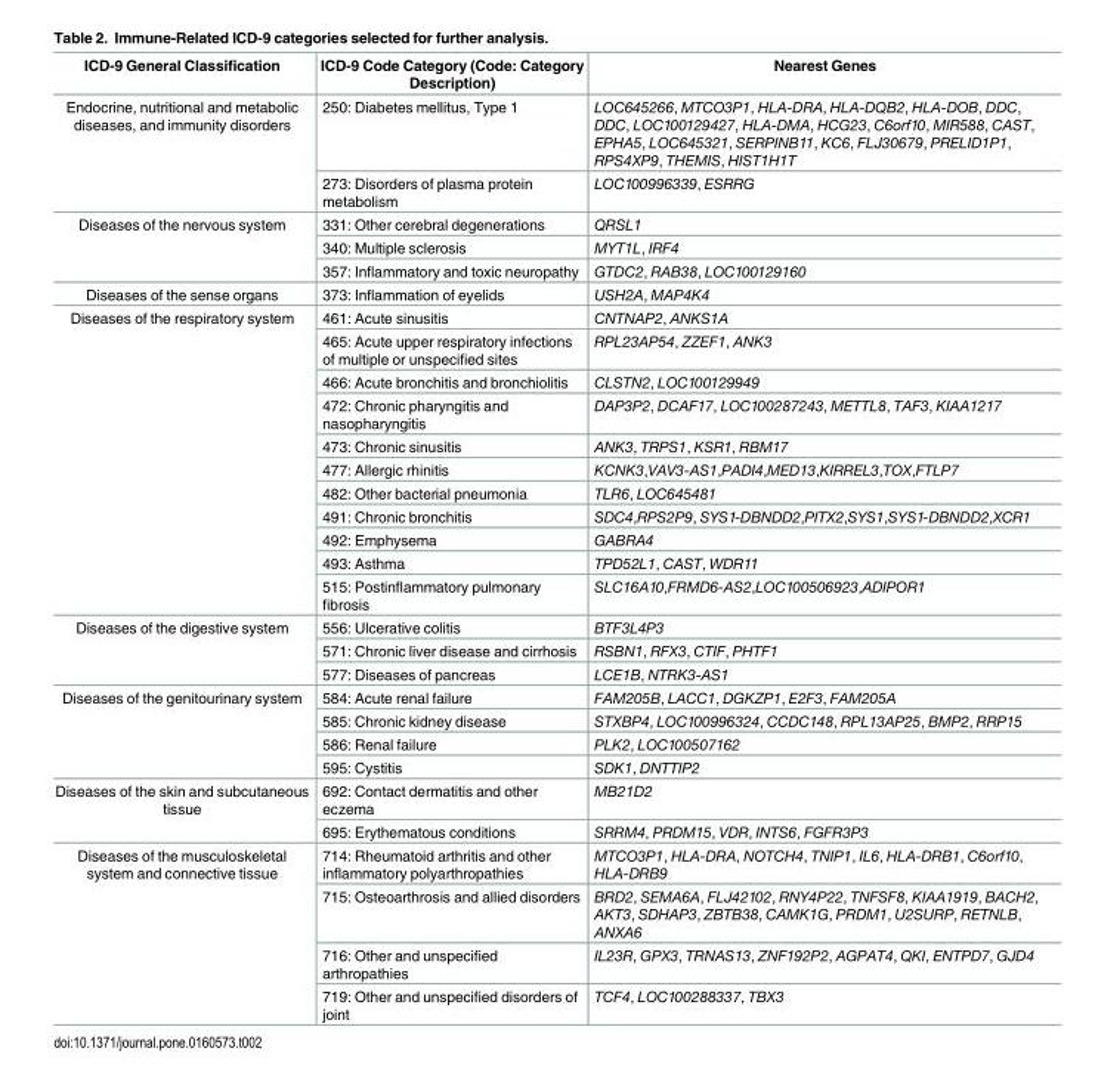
<table><thead><tr><td>ICD-9 General Classification</td><td>ICD-9 Code Category (Code: Category Description)</td><td>Nearest Genes</td></tr></thead><tbody><tr><td rowspan="2">Endocrine, nutritional and metabolic diseases, and immunity disorders</td><td>250: Diabetes mellitus, Type 1</td><td>LOC645266, MTCO3P1, HLA-DRA, HLA-DQB2, HLA-DOB, DDC, DDC, LOC100129427, HLA-DMA, HCG23, C6orf10, MIR588, CAST, EPHA5, LOC645321, SERPINB11, KC6, FLJ30679, PRELID1P1, RPS4XP9, THEMIS, HIST1H1T</td></tr><tr><td>273: Disorders of plasma protein metabolism</td><td>LOC100996339, ESRRG</td></tr><tr><td rowspan="3">Diseases of the nervous system</td><td>331: Other cerebral degenerations</td><td>QRSL1</td></tr><tr><td>340: Multiple sclerosis</td><td>MYT1L, IRF4</td></tr><tr><td>357: Inflammatory and toxic neuropathy</td><td>GTDC2, RAB38, LOC100129160</td></tr><tr><td>Diseases of the sense organs</td><td>373: Inflammation of eyelids</td><td>USH2A, MAP4K4</td></tr><tr><td rowspan="11">Diseases of the respiratory system</td><td>461: Acute sinusitis</td><td>CNTNAP2, ANKS1A</td></tr><tr><td>465: Acute upper respiratory infections of multiple or unspecified sites</td><td>RPL23AP54, ZZEF1, ANK3</td></tr><tr><td>466: Acute bronchitis and bronchiolitis</td><td>CLSTN2, LOC100129949</td></tr><tr><td>472: Chronic pharyngitis and nasopharyngitis</td><td>DAP3P2, DCAF17, LOC100287243, METTL8, TAF3, KIAA1217</td></tr><tr><td>473: Chronic sinusitis</td><td>ANK3, TRPS1, KSR1, RBM17</td></tr><tr><td>477: Allergic rhinitis</td><td>KCNK3,VAV3-AS1,PADI4,MED13,KIRREL3,TOX,FTLP7</td></tr><tr><td>482: Other bacterial pneumonia</td><td>TLR6, LOC645481</td></tr><tr><td>491: Chronic bronchitis</td><td>SDC4,RPS2P9, SYS1-DBNDD2,PITX2,SYS1,SYS1-DBNDD2,XCR1</td></tr><tr><td>492: Emphysema</td><td>GABRA4</td></tr><tr><td>493: Asthma</td><td>TPD52L1, CAST, WDR11</td></tr><tr><td>515: Postinflammatory pulmonary fibrosis</td><td>SLC16A10,FRMD6-AS2,LOC100506923,ADIPOR1</td></tr><tr><td rowspan="3">Diseases of the digestive system</td><td>556: Ulcerative colitis</td><td>BTF3L4P3</td></tr><tr><td>571: Chronic liver disease and cirrhosis</td><td>RSBN1, RFX3, CTIF, PHTF1</td></tr><tr><td>577: Diseases of pancreas</td><td>LCE1B, NTRK3-AS1</td></tr><tr><td rowspan="4">Diseases of the genitourinary system</td><td>584: Acute renal failure</td><td>FAM205B, LACC1, DGKZP1, E2F3, FAM205A</td></tr><tr><td>585: Chronic kidney disease</td><td>STXBP4, LOC100996324, CCDC148, RPL13AP25, BMP2, RRP15</td></tr><tr><td>586: Renal failure</td><td>PLK2, LOC100507162</td></tr><tr><td>595: Cystitis</td><td>SDK1, DNTTIP2</td></tr><tr><td rowspan="2">Diseases of the skin and subcutaneous tissue</td><td>692: Contact dermatitis and other eczema</td><td>MB21D2</td></tr><tr><td>695: Erythematous conditions</td><td>SRRM4, PRDM15, VDR, INTS6, FGFR3P3</td></tr><tr><td rowspan="4">Diseases of the musculoskeletal system and connective tissue</td><td>714: Rheumatoid arthritis and other inflammatory polyarthropathies</td><td>MTCO3P1, HLA-DRA, NOTCH4, TNIP1, IL6, HLA-DRB1, C6orf10, HLA-DRB9</td></tr><tr><td>715: Osteoarthrosis and allied disorders</td><td>BRD2, SEMA6A, FLJ42102, RNY4P22, TNFSF8, KIAA1919, BACH2, AKT3, SDHAP3, ZBTB38, CAMK1G, PRDM1, U2SURP, RETNLB, ANXA6</td></tr><tr><td>716: Other and unspecified arthropathies</td><td>IL23R, GPX3, TRNAS13, ZNF192P2, AGPAT4, QKI, ENTPD7, GJD4</td></tr><tr><td>719: Other and unspecified disorders of joint</td><td>TCF4, LOC100288337, TBX3</td></tr></tbody></table>